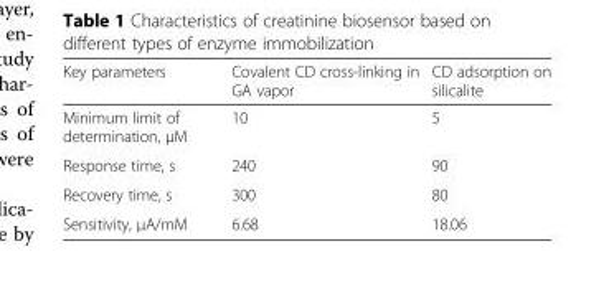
<table><thead><tr><td>Key parameters</td><td>Covalent CD cross-linking in GA vapor</td><td>CD adsorption on silicalite</td></tr></thead><tbody><tr><td>Minimum limit of determination, μM</td><td>10</td><td>5</td></tr><tr><td>Response time, s</td><td>240</td><td>90</td></tr><tr><td>Recovery time, s</td><td>300</td><td>80</td></tr><tr><td>Sensitivity, μА/mМ</td><td>6.68</td><td>18.06</td></tr></tbody></table>